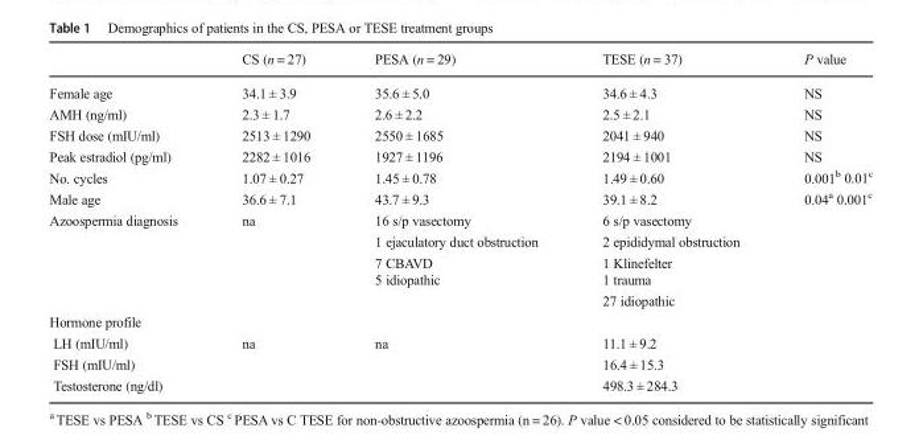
<table><thead><tr><td></td><td>CS (n = 27)</td><td>PESA (n = 29)</td><td>TESE (n = 37)</td><td>P value</td></tr></thead><tbody><tr><td>Female age</td><td>34.1 ± 3.9</td><td>35.6 ± 5.0</td><td>34.6 ± 4.3</td><td>NS</td></tr><tr><td>AMH (ng/ml)</td><td>2.3 ± 1.7</td><td>2.6 ± 2.2</td><td>2.5 ± 2.1</td><td>NS</td></tr><tr><td>FSH dose (mIU/ml)</td><td>2513 ± 1290</td><td>2550 ± 1685</td><td>2041 ± 940</td><td>NS</td></tr><tr><td>Peak estradiol (pg/ml)</td><td>2282 ± 1016</td><td>1927 ± 1196</td><td>2194 ± 1001</td><td>NS</td></tr><tr><td>No. cycles</td><td>1.07 ± 0.27</td><td>1.45 ± 0.78</td><td>1.49 ± 0.60</td><td>0.001<sup>b</sup> 0.01<sup>c</sup></td></tr><tr><td>Male age</td><td>36.6 ± 7.1</td><td>43.7 ± 9.3</td><td>39.1 ± 8.2</td><td>0.04<sup>a</sup> 0.001<sup>c</sup></td></tr><tr><td rowspan="5">Azoospermia diagnosis</td><td rowspan="5">na</td><td>16 s/p vasectomy</td><td>6 s/p vasectomy</td><td></td></tr><tr><td>1 ejaculatory duct obstruction</td><td>2 epididymal obstruction</td><td></td></tr><tr><td>7 CBAVD</td><td>1 Klinefelter</td><td rowspan="2"></td></tr><tr><td>5 idiopathic</td><td>1 trauma</td></tr><tr><td></td><td>27 idiopathic</td><td></td></tr><tr><td colspan="5">Hormone profile</td></tr><tr><td>LH (mIU/ml)</td><td rowspan="3">na</td><td rowspan="3">na</td><td>11.1 ± 9.2</td><td></td></tr><tr><td>FSH (mIU/ml)</td><td>16.4 ± 15.3</td><td></td></tr><tr><td>Testosterone (ng/dl)</td><td>498.3 ± 284.3</td><td></td></tr></tbody></table>